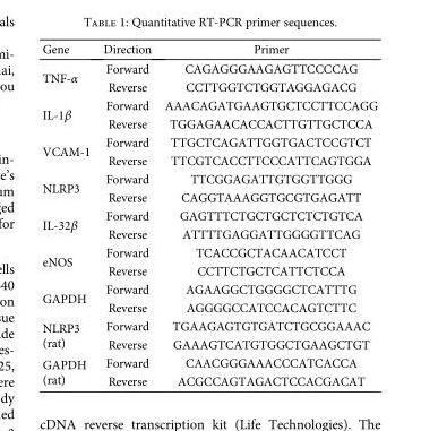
<table><thead><tr><td>Gene</td><td>Direction</td><td>Primer</td></tr></thead><tbody><tr><td rowspan="2">TNF-α</td><td>Forward</td><td>CAGAGGGAAGAGTTCCCCAG</td></tr><tr><td>Reverse</td><td>CCTTGGTCTGGTAGGAGACG</td></tr><tr><td rowspan="2">IL-1β</td><td>Forward</td><td>AAACAGATGAAGTGCTCCTTCCAGG</td></tr><tr><td>Reverse</td><td>TGGAGAACACCACTTGTTGCTCCA</td></tr><tr><td rowspan="2">VCAM-1</td><td>Forward</td><td>TTGCTCAGATTGGTGACTCCGTCT</td></tr><tr><td>Reverse</td><td>TTCGTCACCTTCCCATTCAGTGGA</td></tr><tr><td rowspan="2">NLRP3</td><td>Forward</td><td>TTCGGAGATTGTGGTTGGG</td></tr><tr><td>Reverse</td><td>CAGGTAAAGGTGCGTGAGATT</td></tr><tr><td rowspan="2">IL-32β</td><td>Forward</td><td>GAGTTTCTGCTGCTCTCTGTCA</td></tr><tr><td>Reverse</td><td>ATTTTGAGGATTGGGGTTCAG</td></tr><tr><td rowspan="2">eNOS</td><td>Forward</td><td>TCACCGCTACAACATCCT</td></tr><tr><td>Reverse</td><td>CCTTCTGCTCATTCTCCA</td></tr><tr><td rowspan="2">GAPDH</td><td>Forward</td><td>AGAAGGCTGGGGCTCATTTG</td></tr><tr><td>Reverse</td><td>AGGGGCCATCCACAGTCTTC</td></tr><tr><td rowspan="2">NLRP3 (rat)</td><td>Forward</td><td>TGAAGAGTGTGATCTGCGGAAAC</td></tr><tr><td>Reverse</td><td>GAAAGTCATGTGGCTGAAGCTGT</td></tr><tr><td rowspan="2">GAPDH (rat)</td><td>Forward</td><td>CAACGGGAAACCCATCACCA</td></tr><tr><td>Reverse</td><td>ACGCCAGTAGACTCCACGACAT</td></tr></tbody></table>